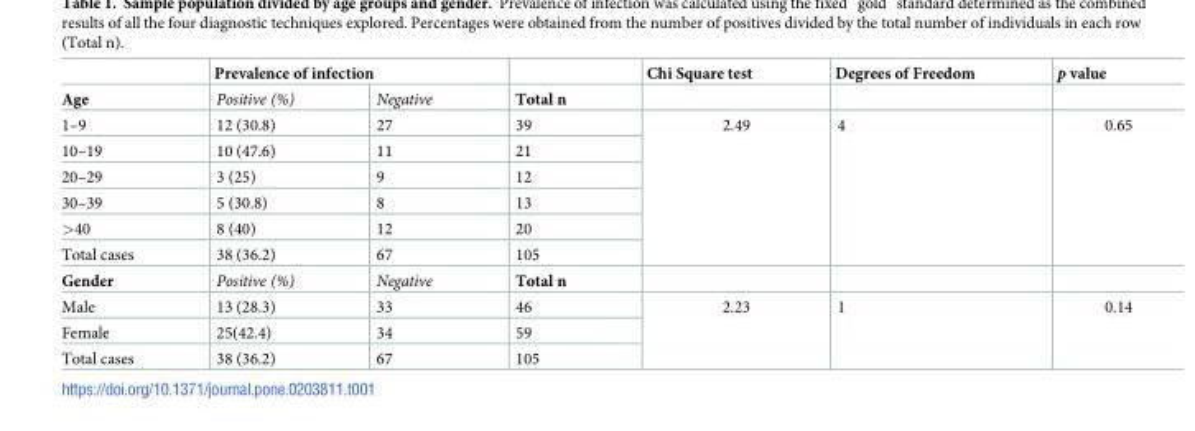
<table><thead><tr><td rowspan="2">Age</td><td colspan="2">Prevalence of infection</td><td rowspan="2">Total n</td><td rowspan="2">Chi Square test</td><td rowspan="2">Degrees of Freedom</td><td rowspan="2">p value</td></tr><tr><td>Positive (%)</td><td>Negative</td></tr></thead><tbody><tr><td>1–9</td><td>12 (30.8)</td><td>27</td><td>39</td><td rowspan="6">2.49</td><td rowspan="6">4</td><td rowspan="6">0.65</td></tr><tr><td>10–19</td><td>10 (47.6)</td><td>11</td><td>21</td></tr><tr><td>20–29</td><td>3 (25)</td><td>9</td><td>12</td></tr><tr><td>30–39</td><td>5 (30.8)</td><td>8</td><td>13</td></tr><tr><td>&gt;40</td><td>8 (40)</td><td>12</td><td>20</td></tr><tr><td>Total cases</td><td>38 (36.2)</td><td>67</td><td>105</td></tr><tr><td>Gender</td><td>Positive (%)</td><td>Negative</td><td>Total n</td><td></td><td></td><td></td></tr><tr><td>Male</td><td>13 (28.3)</td><td>33</td><td>46</td><td rowspan="3">2.23</td><td rowspan="3">1</td><td rowspan="3">0.14</td></tr><tr><td>Female</td><td>25(42.4)</td><td>34</td><td>59</td></tr><tr><td>Total cases</td><td>38 (36.2)</td><td>67</td><td>105</td></tr></tbody></table>